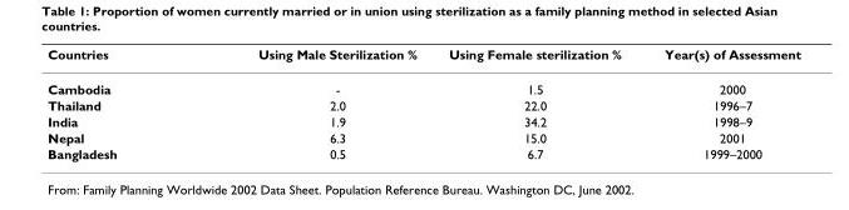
<table><thead><tr><td>Countries</td><td>Using Male Sterilization %</td><td>Using Female sterilization %</td><td>Year(s) of Assessment</td></tr></thead><tbody><tr><td>Cambodia</td><td>-</td><td>1.5</td><td>2000</td></tr><tr><td>Thailand</td><td>2.0</td><td>22.0</td><td>1996–7</td></tr><tr><td>India</td><td>1.9</td><td>34.2</td><td>1998–9</td></tr><tr><td>Nepal</td><td>6.3</td><td>15.0</td><td>2001</td></tr><tr><td>Bangladesh</td><td>0.5</td><td>6.7</td><td>1999–2000</td></tr></tbody></table>